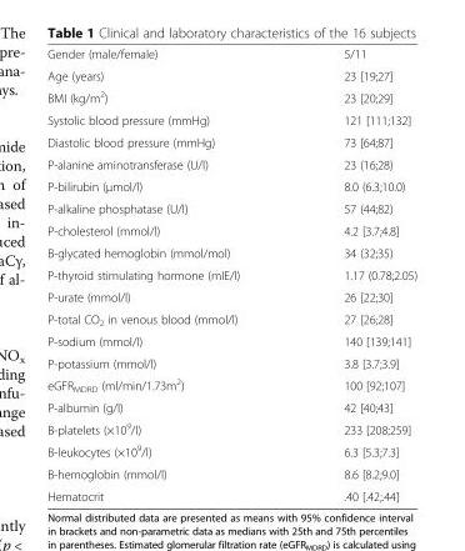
<table><tbody><tr><td>Gender (male/female)</td><td>5/11</td></tr><tr><td>Age (years)</td><td>23 [19;27]</td></tr><tr><td>BMI (kg/m<sup>2</sup>)</td><td>23 [20;29]</td></tr><tr><td>Systolic blood pressure (mmHg)</td><td>121 [111;132]</td></tr><tr><td>Diastolic blood pressure (mmHg)</td><td>73 [64;87]</td></tr><tr><td>P-alanine aminotransferase (U/l)</td><td>23 (16;28)</td></tr><tr><td>P-bilirubin (μmol/l)</td><td>8.0 (6.3;10.0)</td></tr><tr><td>P-alkaline phosphatase (U/l)</td><td>57 (44;82)</td></tr><tr><td>P-cholesterol (mmol/l)</td><td>4.2 [3.7;4.8]</td></tr><tr><td>B-glycated hemoglobin (mmol/mol)</td><td>34 (32;35)</td></tr><tr><td>P-thyroid stimulating hormone (mIE/l)</td><td>1.17 (0.78;2.05)</td></tr><tr><td>P-urate (mmol/l)</td><td>26 [22;30]</td></tr><tr><td>P-total CO<sub>2</sub> in venous blood (mmol/l)</td><td>27 [26;28]</td></tr><tr><td>P-sodium (mmol/l)</td><td>140 [139;141]</td></tr><tr><td>P-potassium (mmol/l)</td><td>3.8 [3.7;3.9]</td></tr><tr><td>eGFR<sub>MDRD</sub> (ml/min/1.73m<sup>2</sup>)</td><td>100 [92;107]</td></tr><tr><td>P-albumin (g/l)</td><td>42 [40;43]</td></tr><tr><td>B-platelets (×10<sup>9</sup>/l)</td><td>233 [208;259]</td></tr><tr><td>B-leukocytes (×10<sup>9</sup>/l)</td><td>6.3 [5.3;7.3]</td></tr><tr><td>B-hemoglobin (mmol/l)</td><td>8.6 [8.2;9.0]</td></tr><tr><td>Hematocrit</td><td>.40 [.42;.44]</td></tr></tbody></table>